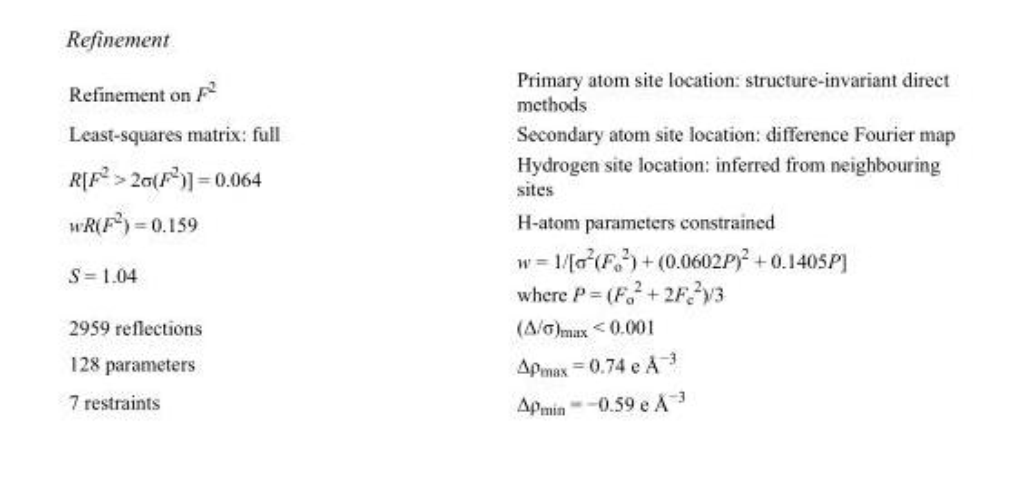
<table><tbody><tr><td>Refinement on F<sup>2</sup></td><td>Primary atom site location: structure-invariant direct methods</td></tr><tr><td>Least-squares matrix: full</td><td>Secondary atom site location: difference Fourier map</td></tr><tr><td>R[F<sup>2</sup> &gt; 2σ(F<sup>2</sup>)] = 0.064</td><td>Hydrogen site location: inferred from neighbouring sites</td></tr><tr><td>wR(F<sup>2</sup>) = 0.159</td><td>H-atom parameters constrained</td></tr><tr><td>S = 1.04</td><td>w = 1/[σ<sup>2</sup>(F<sub>o</sub> <sup>2</sup>) + (0.0602P)<sup>2</sup> + 0.1405P] where P = (F<sub>o</sub> <sup>2</sup> + 2F<sub>c</sub> <sup>2</sup>)/3</td></tr><tr><td>2959 reflections</td><td>(Δ/σ)<sub>max</sub> &lt; 0.001</td></tr><tr><td>128 parameters</td><td>Δρ<sub>max</sub> = 0.74 e Å<sup>−3</sup></td></tr><tr><td>7 restraints</td><td>Δρ<sub>min</sub> = −0.59 e Å<sup>−3</sup></td></tr></tbody></table>